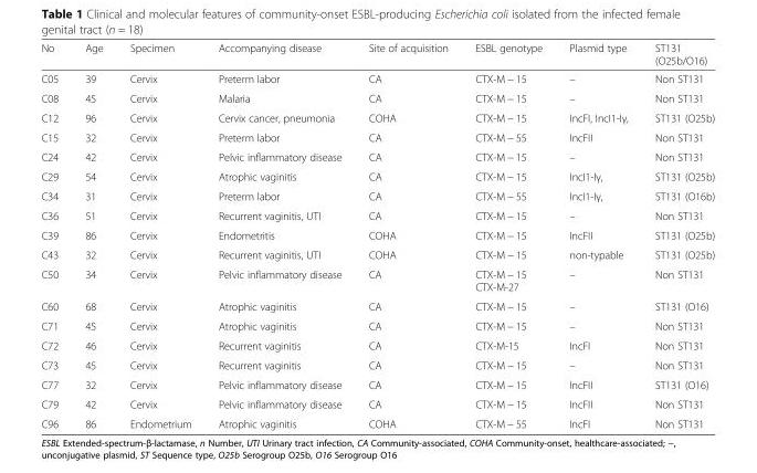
<table><thead><tr><td>No</td><td>Age</td><td>Specimen</td><td>Accompanying disease</td><td>Site of acquisition</td><td>ESBL genotype</td><td>Plasmid type</td><td>ST131 (O25b/O16)</td></tr></thead><tbody><tr><td>C05</td><td>39</td><td>Cervix</td><td>Preterm labor</td><td>CA</td><td>CTX-M − 15</td><td>–</td><td>Non ST131</td></tr><tr><td>C08</td><td>45</td><td>Cervix</td><td>Malaria</td><td>CA</td><td>CTX-M − 15</td><td>–</td><td>Non ST131</td></tr><tr><td>C12</td><td>96</td><td>Cervix</td><td>Cervix cancer, pneumonia</td><td>COHA</td><td>CTX-M − 15</td><td>IncFI, IncI1-Iγ,</td><td>ST131 (O25b)</td></tr><tr><td>C15</td><td>32</td><td>Cervix</td><td>Preterm labor</td><td>CA</td><td>CTX-M − 55</td><td>IncFII</td><td>Non ST131</td></tr><tr><td>C24</td><td>42</td><td>Cervix</td><td>Pelvic inflammatory disease</td><td>CA</td><td>CTX-M − 15</td><td>–</td><td>Non ST131</td></tr><tr><td>C29</td><td>54</td><td>Cervix</td><td>Atrophic vaginitis</td><td>CA</td><td>CTX-M − 15</td><td>IncI1-Iγ,</td><td>ST131 (O25b)</td></tr><tr><td>C34</td><td>31</td><td>Cervix</td><td>Preterm labor</td><td>CA</td><td>CTX-M − 55</td><td>IncI1-Iγ,</td><td>ST131 (O16b)</td></tr><tr><td>C36</td><td>51</td><td>Cervix</td><td>Recurrent vaginitis, UTI</td><td>CA</td><td>CTX-M − 15</td><td>–</td><td>Non ST131</td></tr><tr><td>C39</td><td>86</td><td>Cervix</td><td>Endometritis</td><td>COHA</td><td>CTX-M − 15</td><td>IncFII</td><td>ST131 (O25b)</td></tr><tr><td>C43</td><td>32</td><td>Cervix</td><td>Recurrent vaginitis, UTI</td><td>COHA</td><td>CTX-M − 15</td><td>non-typable</td><td>ST131 (O25b)</td></tr><tr><td>C50</td><td>34</td><td>Cervix</td><td>Pelvic inflammatory disease</td><td>CA</td><td>CTX-M − 15 CTX-M-27</td><td>–</td><td>Non ST131</td></tr><tr><td>C60</td><td>68</td><td>Cervix</td><td>Atrophic vaginitis</td><td>CA</td><td>CTX-M − 15</td><td>–</td><td>ST131 (O16)</td></tr><tr><td>C71</td><td>45</td><td>Cervix</td><td>Atrophic vaginitis</td><td>CA</td><td>CTX-M − 15</td><td>–</td><td>Non ST131</td></tr><tr><td>C72</td><td>46</td><td>Cervix</td><td>Recurrent vaginitis</td><td>CA</td><td>CTX-M-15</td><td>IncFI</td><td>Non ST131</td></tr><tr><td>C73</td><td>45</td><td>Cervix</td><td>Recurrent vaginitis</td><td>CA</td><td>CTX-M − 15</td><td>–</td><td>Non ST131</td></tr><tr><td>C77</td><td>32</td><td>Cervix</td><td>Pelvic inflammatory disease</td><td>CA</td><td>CTX-M − 15</td><td>IncFII</td><td>ST131 (O16)</td></tr><tr><td>C79</td><td>42</td><td>Cervix</td><td>Pelvic inflammatory disease</td><td>CA</td><td>CTX-M − 15</td><td>IncFII</td><td>Non ST131</td></tr><tr><td>C96</td><td>86</td><td>Endometrium</td><td>Atrophic vaginitis</td><td>COHA</td><td>CTX-M − 55</td><td>IncFI</td><td>Non ST131</td></tr></tbody></table>